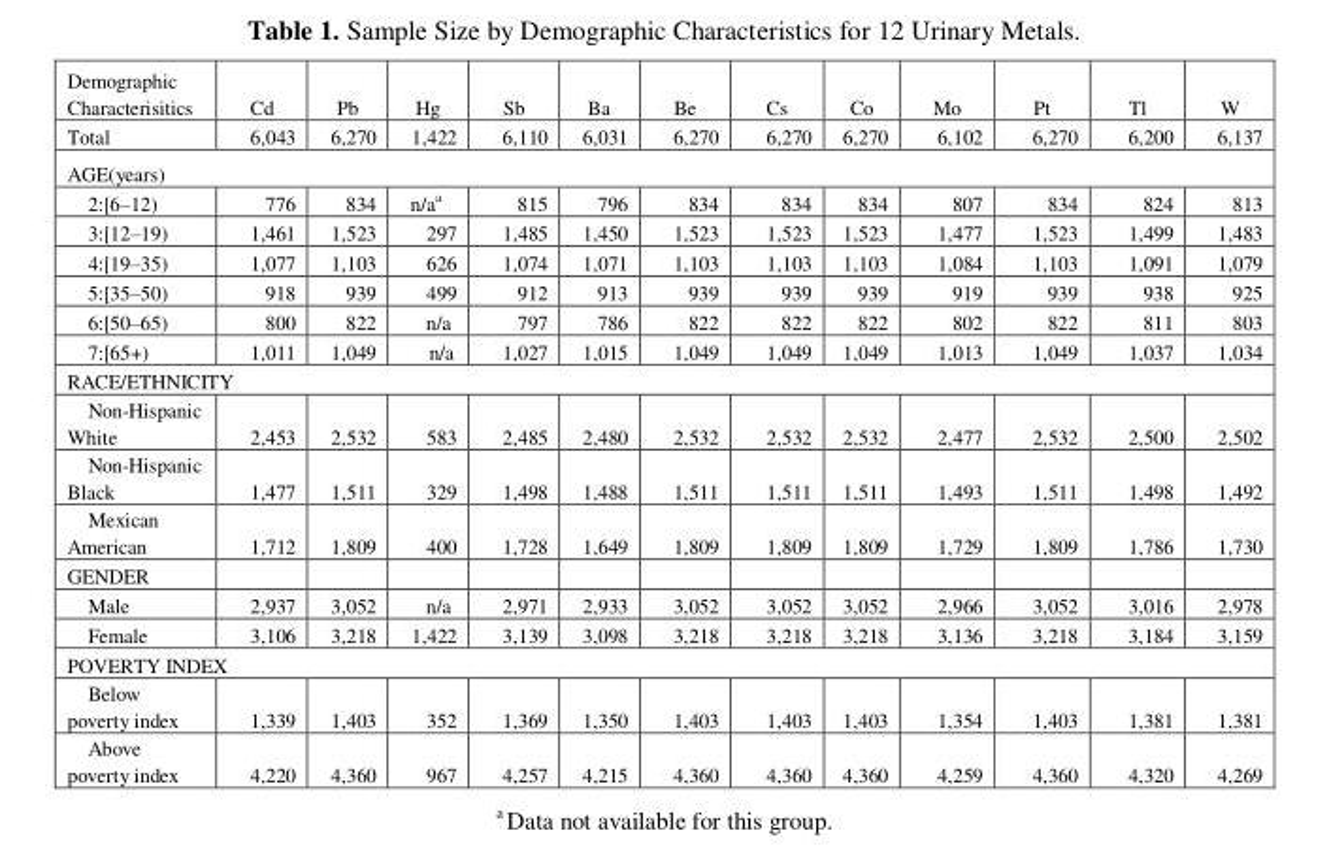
<table><thead><tr><td>Demographic Characterisitics</td><td>Cd</td><td>Pb</td><td>Hg</td><td>Sb</td><td>Ba</td><td>Be</td><td>Cs</td><td>Co</td><td>Mo</td><td>Pt</td><td>Tl</td><td>W</td></tr></thead><tbody><tr><td>Total</td><td>6,043</td><td>6,270</td><td>1,422</td><td>6,110</td><td>6,031</td><td>6,270</td><td>6,270</td><td>6,270</td><td>6,102</td><td>6,270</td><td>6,200</td><td>6,137</td></tr><tr><td colspan="13">AGE(years)</td></tr><tr><td>2:[6–12)</td><td>776</td><td>834</td><td>n/a<sup>a</sup></td><td>815</td><td>796</td><td>834</td><td>834</td><td>834</td><td>807</td><td>834</td><td>824</td><td>813</td></tr><tr><td>3:[12–19)</td><td>1,461</td><td>1,523</td><td>297</td><td>1,485</td><td>1,450</td><td>1,523</td><td>1,523</td><td>1,523</td><td>1,477</td><td>1,523</td><td>1,499</td><td>1,483</td></tr><tr><td>4:[19–35)</td><td>1,077</td><td>1,103</td><td>626</td><td>1,074</td><td>1,071</td><td>1,103</td><td>1,103</td><td>1,103</td><td>1,084</td><td>1,103</td><td>1,091</td><td>1,079</td></tr><tr><td>5:[35–50)</td><td>918</td><td>939</td><td>499</td><td>912</td><td>913</td><td>939</td><td>939</td><td>939</td><td>919</td><td>939</td><td>938</td><td>925</td></tr><tr><td>6:[50–65)</td><td>800</td><td>822</td><td>n/a</td><td>797</td><td>786</td><td>822</td><td>822</td><td>822</td><td>802</td><td>822</td><td>811</td><td>803</td></tr><tr><td>7:[65+)</td><td>1,011</td><td>1,049</td><td>n/a</td><td>1,027</td><td>1,015</td><td>1,049</td><td>1,049</td><td>1,049</td><td>1,013</td><td>1,049</td><td>1,037</td><td>1,034</td></tr><tr><td colspan="13">RACE/ETHNICITY</td></tr><tr><td>Non-Hispanic White</td><td>2,453</td><td>2,532</td><td>583</td><td>2,485</td><td>2,480</td><td>2,532</td><td>2,532</td><td>2,532</td><td>2,477</td><td>2,532</td><td>2,500</td><td>2,502</td></tr><tr><td>Non-Hispanic Black</td><td>1,477</td><td>1,511</td><td>329</td><td>1,498</td><td>1,488</td><td>1,511</td><td>1,511</td><td>1,511</td><td>1,493</td><td>1,511</td><td>1,498</td><td>1,492</td></tr><tr><td>Mexican American</td><td>1,712</td><td>1,809</td><td>400</td><td>1,728</td><td>1,649</td><td>1,809</td><td>1,809</td><td>1,809</td><td>1,729</td><td>1,809</td><td>1,786</td><td>1,730</td></tr><tr><td colspan="13">GENDER</td></tr><tr><td>Male</td><td>2,937</td><td>3,052</td><td>n/a</td><td>2,971</td><td>2,933</td><td>3,052</td><td>3,052</td><td>3,052</td><td>2,966</td><td>3,052</td><td>3,016</td><td>2,978</td></tr><tr><td>Female</td><td>3,106</td><td>3,218</td><td>1,422</td><td>3,139</td><td>3,098</td><td>3,218</td><td>3,218</td><td>3,218</td><td>3,136</td><td>3,218</td><td>3,184</td><td>3,159</td></tr><tr><td colspan="13">POVERTY INDEX</td></tr><tr><td>Below poverty index</td><td>1,339</td><td>1,403</td><td>352</td><td>1,369</td><td>1,350</td><td>1,403</td><td>1,403</td><td>1,403</td><td>1,354</td><td>1,403</td><td>1,381</td><td>1,381</td></tr><tr><td>Above poverty index</td><td>4,220</td><td>4,360</td><td>967</td><td>4,257</td><td>4,215</td><td>4,360</td><td>4,360</td><td>4,360</td><td>4,259</td><td>4,360</td><td>4,320</td><td>4,269</td></tr></tbody></table>